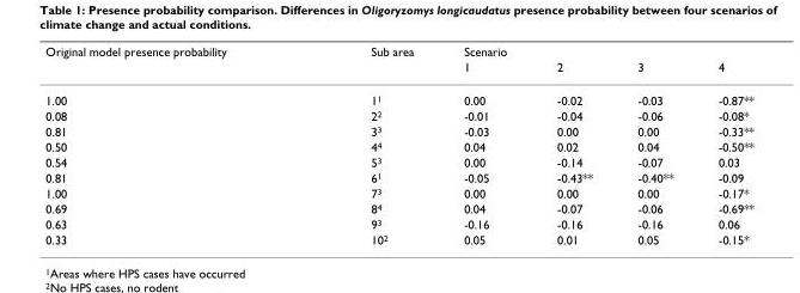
<table><thead><tr><td rowspan="2">Original model presence probability</td><td rowspan="2">Sub area</td><td rowspan="2">Scenario 1</td><td rowspan="2">2</td><td rowspan="2">3</td><td rowspan="2">4</td></tr><tr></tr></thead><tbody><tr><td>1.00</td><td>1<sup>1</sup></td><td>0.00</td><td>-0.02</td><td>-0.03</td><td>-0.87**</td></tr><tr><td>0.08</td><td>2<sup>2</sup></td><td>-0.01</td><td>-0.04</td><td>-0.06</td><td>-0.08*</td></tr><tr><td>0.81</td><td>3<sup>3</sup></td><td>-0.03</td><td>0.00</td><td>0.00</td><td>-0.33**</td></tr><tr><td>0.50</td><td>4<sup>4</sup></td><td>0.04</td><td>0.02</td><td>0.04</td><td>-0.50**</td></tr><tr><td>0.54</td><td>5<sup>3</sup></td><td>0.00</td><td>-0.14</td><td>-0.07</td><td>0.03</td></tr><tr><td>0.81</td><td>6<sup>1</sup></td><td>-0.05</td><td>-0.43**</td><td>-0.40**</td><td>-0.09</td></tr><tr><td>1.00</td><td>7<sup>3</sup></td><td>0.00</td><td>0.00</td><td>0.00</td><td>-0.17*</td></tr><tr><td>0.69</td><td>8<sup>4</sup></td><td>0.04</td><td>-0.07</td><td>-0.06</td><td>-0.69**</td></tr><tr><td>0.63</td><td>9<sup>3</sup></td><td>-0.16</td><td>-0.16</td><td>-0.16</td><td>0.06</td></tr><tr><td>0.33</td><td>10<sup>2</sup></td><td>0.05</td><td>0.01</td><td>0.05</td><td>-0.15*</td></tr></tbody></table>